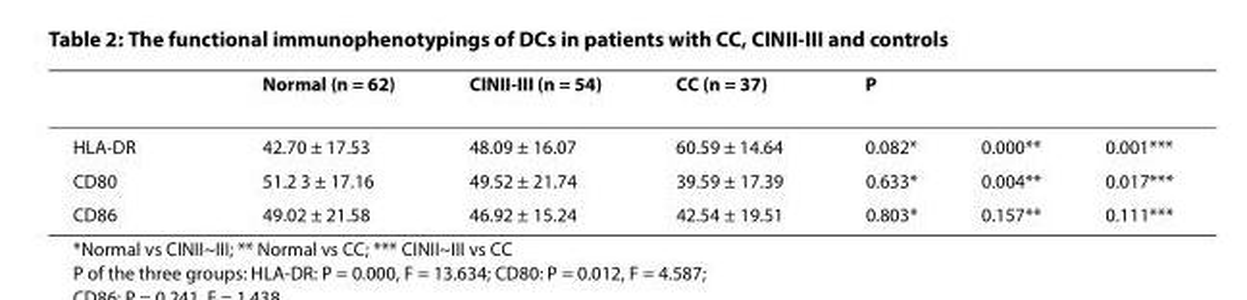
<table><thead><tr><td rowspan="2">HLA-DR</td><td rowspan="2">Normal (n = 62) 42.70 ± 17.53</td><td rowspan="2">CINII-III (n = 54) 48.09 ± 16.07</td><td rowspan="2">CC (n = 37) 60.59 ± 14.64</td><td colspan="3">P</td></tr><tr><td>0.082*</td><td>0.000**</td><td>0.001***</td></tr></thead><tbody><tr><td>CD80</td><td>51.2 3 ± 17.16</td><td>49.52 ± 21.74</td><td>39.59 ± 17.39</td><td>0.633*</td><td>0.004**</td><td>0.017***</td></tr><tr><td>CD86</td><td>49.02 ± 21.58</td><td>46.92 ± 15.24</td><td>42.54 ± 19.51</td><td>0.803*</td><td>0.157**</td><td>0.111***</td></tr></tbody></table>